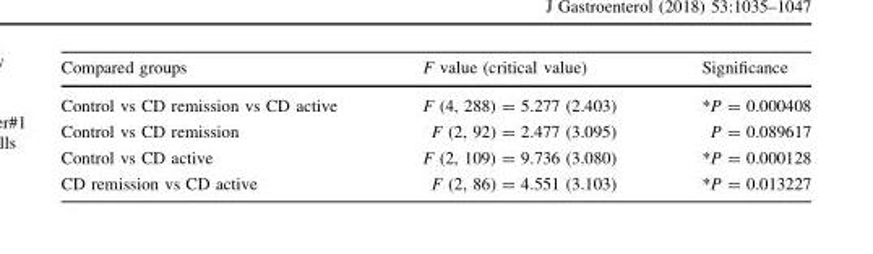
<table><thead><tr><td>Compared groups</td><td>F value (critical value)</td><td>Significance</td></tr></thead><tbody><tr><td>Control vs CD remission vs CD active</td><td>F (4, 288) = 5.277 (2.403)</td><td>*P = 0.000408</td></tr><tr><td>Control vs CD remission</td><td>F (2, 92) = 2.477 (3.095)</td><td>P = 0.089617</td></tr><tr><td>Control vs CD active</td><td>F (2, 109) = 9.736 (3.080)</td><td>*P = 0.000128</td></tr><tr><td>CD remission vs CD active</td><td>F (2, 86) = 4.551 (3.103)</td><td>*P = 0.013227</td></tr></tbody></table>